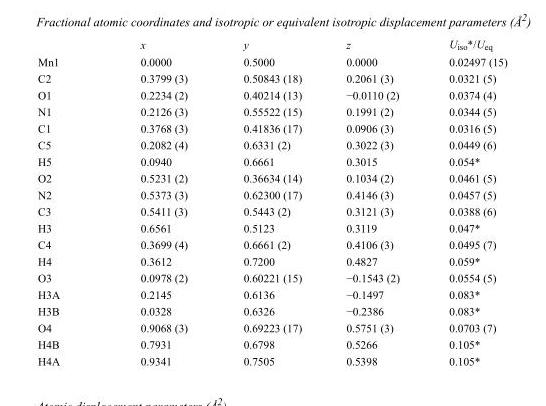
<table><thead><tr><td></td><td>x</td><td>y</td><td>z</td><td>U<sub>iso</sub>*/U<sub>eq</sub></td></tr></thead><tbody><tr><td>Mn1</td><td>0.0000</td><td>0.5000</td><td>0.0000</td><td>0.02497 (15)</td></tr><tr><td>C2</td><td>0.3799 (3)</td><td>0.50843 (18)</td><td>0.2061 (3)</td><td>0.0321 (5)</td></tr><tr><td>O1</td><td>0.2234 (2)</td><td>0.40214 (13)</td><td>−0.0110 (2)</td><td>0.0374 (4)</td></tr><tr><td>N1</td><td>0.2126 (3)</td><td>0.55522 (15)</td><td>0.1991 (2)</td><td>0.0344 (5)</td></tr><tr><td>C1</td><td>0.3768 (3)</td><td>0.41836 (17)</td><td>0.0906 (3)</td><td>0.0316 (5)</td></tr><tr><td>C5</td><td>0.2082 (4)</td><td>0.6331 (2)</td><td>0.3022 (3)</td><td>0.0449 (6)</td></tr><tr><td>H5</td><td>0.0940</td><td>0.6661</td><td>0.3015</td><td>0.054*</td></tr><tr><td>O2</td><td>0.5231 (2)</td><td>0.36634 (14)</td><td>0.1034 (2)</td><td>0.0461 (5)</td></tr><tr><td>N2</td><td>0.5373 (3)</td><td>0.62300 (17)</td><td>0.4146 (3)</td><td>0.0457 (5)</td></tr><tr><td>C3</td><td>0.5411 (3)</td><td>0.5443 (2)</td><td>0.3121 (3)</td><td>0.0388 (6)</td></tr><tr><td>H3</td><td>0.6561</td><td>0.5123</td><td>0.3119</td><td>0.047*</td></tr><tr><td>C4</td><td>0.3699 (4)</td><td>0.6661 (2)</td><td>0.4106 (3)</td><td>0.0495 (7)</td></tr><tr><td>H4</td><td>0.3612</td><td>0.7200</td><td>0.4827</td><td>0.059*</td></tr><tr><td>O3</td><td>0.0978 (2)</td><td>0.60221 (15)</td><td>−0.1543 (2)</td><td>0.0554 (5)</td></tr><tr><td>H3A</td><td>0.2145</td><td>0.6136</td><td>−0.1497</td><td>0.083*</td></tr><tr><td>H3B</td><td>0.0328</td><td>0.6326</td><td>−0.2386</td><td>0.083*</td></tr><tr><td>O4</td><td>0.9068 (3)</td><td>0.69223 (17)</td><td>0.5751 (3)</td><td>0.0703 (7)</td></tr><tr><td>H4B</td><td>0.7931</td><td>0.6798</td><td>0.5266</td><td>0.105*</td></tr><tr><td>H4A</td><td>0.9341</td><td>0.7505</td><td>0.5398</td><td>0.105*</td></tr></tbody></table>